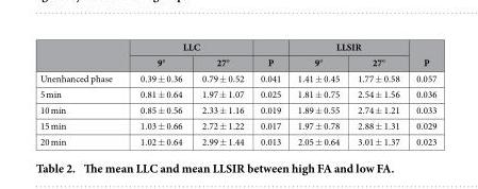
<table><thead><tr><td rowspan="2"></td><td colspan="2">LLC</td><td rowspan="2">P</td><td colspan="2">LLSIR</td><td rowspan="2">P</td></tr><tr><td>9°</td><td>27°</td><td>9°</td><td>27°</td></tr></thead><tbody><tr><td>Unenhanced phase</td><td>0.39 ± 0.36</td><td>0.79 ± 0.52</td><td>0.041</td><td>1.41 ± 0.45</td><td>1.77 ± 0.58</td><td>0.057</td></tr><tr><td>5 min</td><td>0.81 ± 0.64</td><td>1.97 ± 1.07</td><td>0.025</td><td>1.81 ± 0.75</td><td>2.54 ± 1.56</td><td>0.036</td></tr><tr><td>10 min</td><td>0.85 ± 0.56</td><td>2.33 ± 1.16</td><td>0.019</td><td>1.89 ± 0.55</td><td>2.74 ± 1.21</td><td>0.033</td></tr><tr><td>15 min</td><td>1.03 ± 0.66</td><td>2.72 ± 1.22</td><td>0.017</td><td>1.97 ± 0.78</td><td>2.88 ± 1.31</td><td>0.029</td></tr><tr><td>20 min</td><td>1.02 ± 0.64</td><td>2.99 ± 1.44</td><td>0.013</td><td>2.05 ± 0.64</td><td>3.01 ± 1.37</td><td>0.023</td></tr></tbody></table>